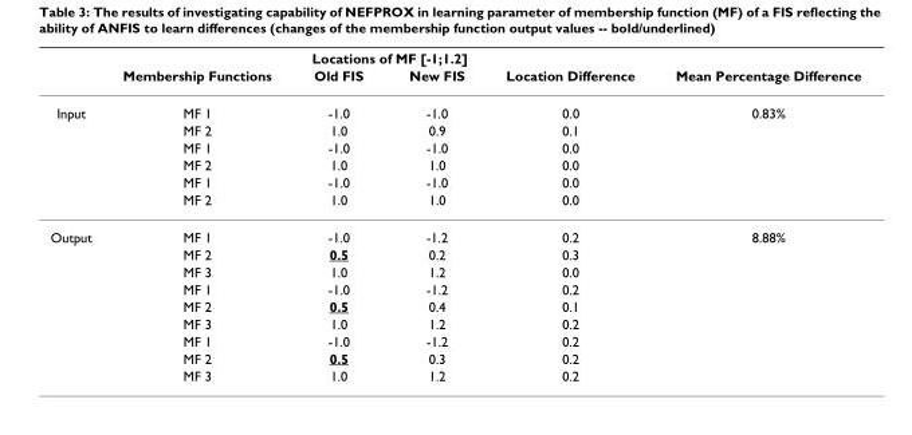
<table><thead><tr><td rowspan="2"></td><td rowspan="2">Membership Functions</td><td colspan="2">Locations of MF [-1;1.2]</td><td rowspan="2">Location Difference</td><td rowspan="2">Mean Percentage Difference</td></tr><tr><td>Old FIS</td><td>New FIS</td></tr></thead><tbody><tr><td rowspan="6">Input</td><td>MF 1</td><td>-1.0</td><td>-1.0</td><td>0.0</td><td>0.83%</td></tr><tr><td>MF 2</td><td>1.0</td><td>0.9</td><td>0.1</td><td></td></tr><tr><td>MF 1</td><td>-1.0</td><td>-1.0</td><td>0.0</td><td></td></tr><tr><td>MF 2</td><td>1.0</td><td>1.0</td><td>0.0</td><td></td></tr><tr><td>MF 1</td><td>-1.0</td><td>-1.0</td><td>0.0</td><td></td></tr><tr><td>MF 2</td><td>1.0</td><td>1.0</td><td>0.0</td><td></td></tr><tr><td rowspan="9">Output</td><td>MF 1</td><td>-1.0</td><td>-1.2</td><td>0.2</td><td>8.88%</td></tr><tr><td>MF 2</td><td>0.5</td><td>0.2</td><td>0.3</td><td></td></tr><tr><td>MF 3</td><td>1.0</td><td>1.2</td><td>0.0</td><td></td></tr><tr><td>MF 1</td><td>-1.0</td><td>-1.2</td><td>0.2</td><td></td></tr><tr><td>MF 2</td><td>0.5</td><td>0.4</td><td>0.1</td><td></td></tr><tr><td>MF 3</td><td>1.0</td><td>1.2</td><td>0.2</td><td></td></tr><tr><td>MF 1</td><td>-1.0</td><td>-1.2</td><td>0.2</td><td></td></tr><tr><td>MF 2</td><td>0.5</td><td>0.3</td><td>0.2</td><td></td></tr><tr><td>MF 3</td><td>1.0</td><td>1.2</td><td>0.2</td><td></td></tr></tbody></table>